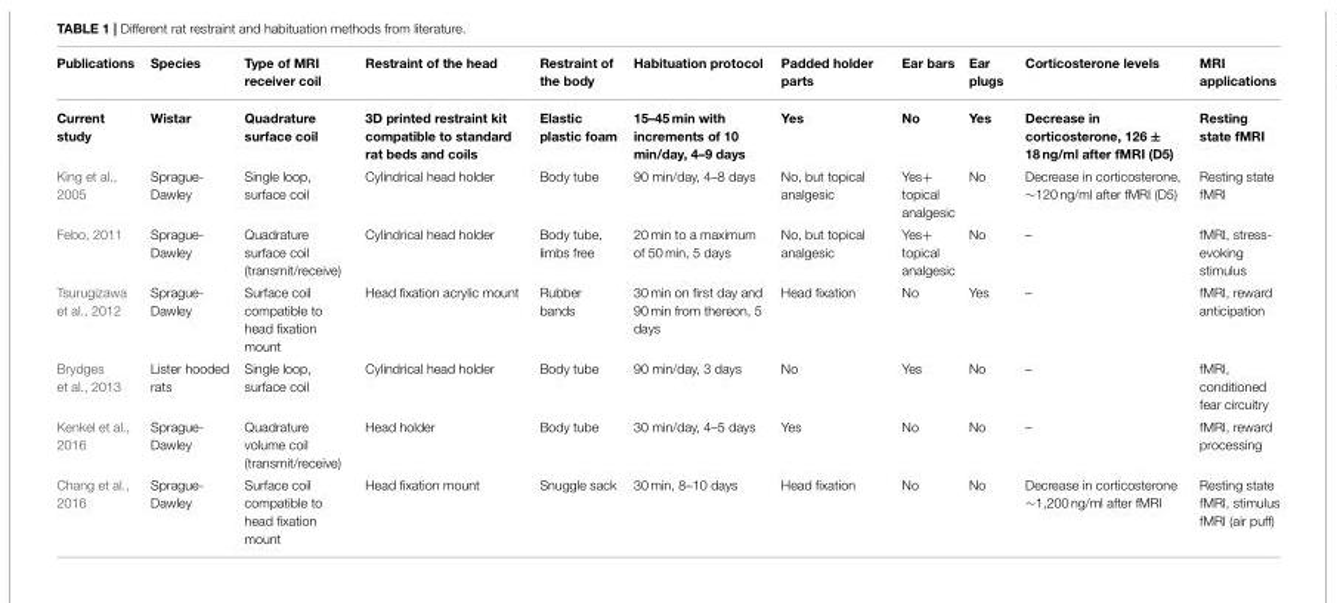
<table><thead><tr><td>Publications</td><td>Species</td><td>Type of MRI receiver coil</td><td>Restraint of the head</td><td>Restraint of the body</td><td>Habituation protocol</td><td>Padded holder parts</td><td>Ear bars</td><td>Ear plugs</td><td>Corticosterone levels</td><td>MRI applications</td></tr></thead><tbody><tr><td>Current study</td><td>Wistar</td><td>Quadrature surface coil</td><td>3D printed restraint kit compatible to standard rat beds and coils</td><td>Elastic plastic foam</td><td>15–45 min with increments of 10 min/day, 4–9 days</td><td>Yes</td><td>No</td><td>Yes</td><td>Decrease in corticosterone, 126 ± 18 ng/ml after fMRI (D5)</td><td>Resting state fMRI</td></tr><tr><td>King et al., 2005</td><td>Sprague- Dawley</td><td>Single loop, surface coil</td><td>Cylindrical head holder</td><td>Body tube</td><td>90 min/day, 4–8 days</td><td>No, but topical analgesic</td><td>Yes+ topical analgesic</td><td>No</td><td>Decrease in corticosterone, ∼120 ng/ml after fMRI (D5)</td><td>Resting state fMRI</td></tr><tr><td>Febo, 2011</td><td>Sprague- Dawley</td><td>Quadrature surface coil (transmit/receive)</td><td>Cylindrical head holder</td><td>Body tube, limbs free</td><td>20 min to a maximum of 50 min, 5 days</td><td>No, but topical analgesic</td><td>Yes+ topical analgesic</td><td>No</td><td>–</td><td>fMRI, stress- evoking stimulus</td></tr><tr><td>Tsurugizawa et al., 2012</td><td>Sprague- Dawley</td><td>Surface coil compatible to head fixation mount</td><td>Head fixation acrylic mount</td><td>Rubber bands</td><td>30 min on first day and 90 min from thereon, 5 days</td><td>Head fixation</td><td>No</td><td>Yes</td><td>–</td><td>fMRI, reward anticipation</td></tr><tr><td>Brydges et al., 2013</td><td>Lister hooded rats</td><td>Single loop, surface coil</td><td>Cylindrical head holder</td><td>Body tube</td><td>90 min/day, 3 days</td><td>No</td><td>Yes</td><td>No</td><td>–</td><td>fMRI, conditioned fear circuitry</td></tr><tr><td>Kenkel et al., 2016</td><td>Sprague- Dawley</td><td>Quadrature volume coil (transmit/receive)</td><td>Head holder</td><td>Body tube</td><td>30 min/day, 4–5 days</td><td>Yes</td><td>No</td><td>No</td><td>–</td><td>fMRI, reward processing</td></tr><tr><td>Chang et al., 2016</td><td>Sprague- Dawley</td><td>Surface coil compatible to head fixation mount</td><td>Head fixation mount</td><td>Snuggle sack</td><td>30 min, 8–10 days</td><td>Head fixation</td><td>No</td><td>No</td><td>Decrease in corticosterone ∼1,200 ng/ml after fMRI</td><td>Resting state fMRI, stimulus fMRI (air puff)</td></tr></tbody></table>